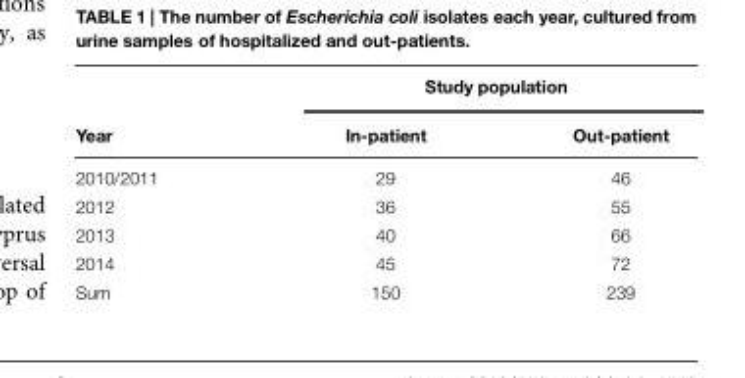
<table><thead><tr><td rowspan="2">Year</td><td colspan="2">Study population</td></tr><tr><td>In-patient</td><td>Out-patient</td></tr></thead><tbody><tr><td>2010/2011</td><td>29</td><td>46</td></tr><tr><td>2012</td><td>36</td><td>55</td></tr><tr><td>2013</td><td>40</td><td>66</td></tr><tr><td>2014</td><td>45</td><td>72</td></tr><tr><td>Sum</td><td>150</td><td>239</td></tr></tbody></table>